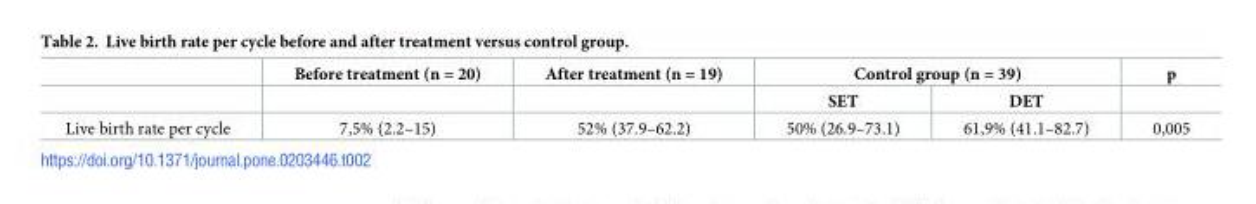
<table><thead><tr><td rowspan="2"></td><td rowspan="2">Before treatment (n = 20)</td><td rowspan="2">After treatment (n = 19)</td><td colspan="2">Control group (n = 39)</td><td rowspan="2">p</td></tr><tr><td>SET</td><td>DET</td></tr></thead><tbody><tr><td>Live birth rate per cycle</td><td>7,5% (2.2–15)</td><td>52% (37.9–62.2)</td><td>50% (26.9–73.1)</td><td>61,9% (41.1–82.7)</td><td>0,005</td></tr></tbody></table>